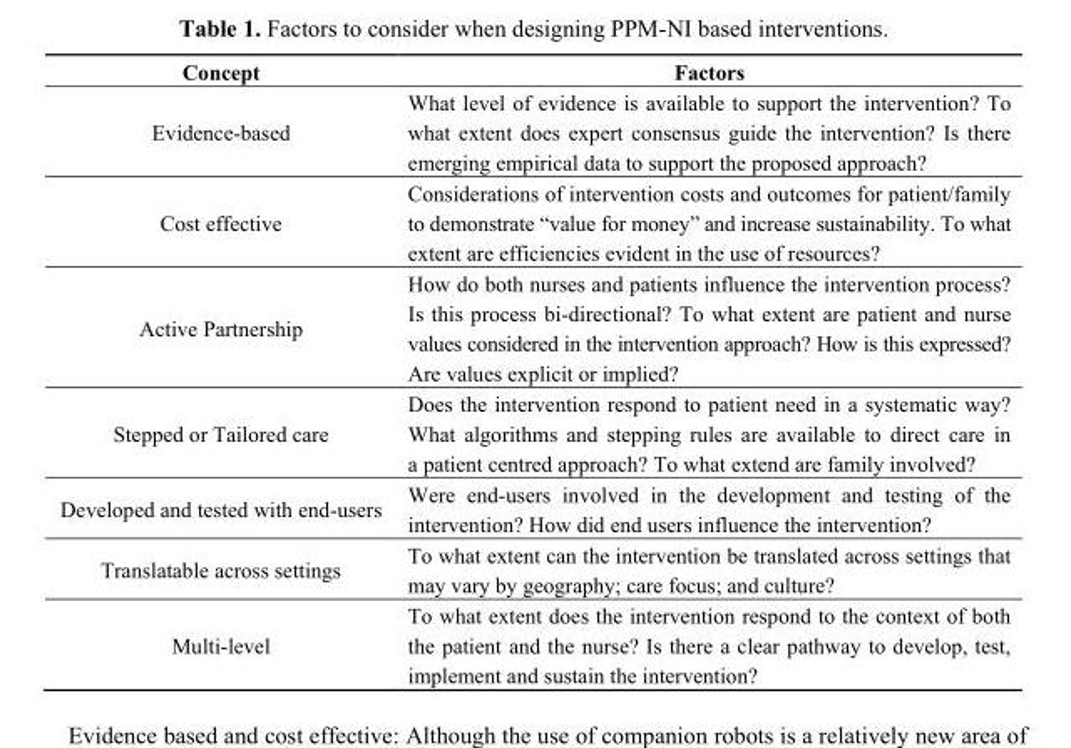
<table><thead><tr><td>Concept</td><td>Factors</td></tr></thead><tbody><tr><td>Evidence-based</td><td>What level of evidence is available to support the intervention? To what extent does expert consensus guide the intervention? Is there emerging empirical data to support the proposed approach?</td></tr><tr><td>Cost effective</td><td>Considerations of intervention costs and outcomes for patient/family to demonstrate “value for money” and increase sustainability. To what extent are efficiencies evident in the use of resources?</td></tr><tr><td>Active Partnership</td><td>How do both nurses and patients influence the intervention process? Is this process bi-directional? To what extent are patient and nurse values considered in the intervention approach? How is this expressed? Are values explicit or implied?</td></tr><tr><td>Stepped or Tailored care</td><td>Does the intervention respond to patient need in a systematic way? What algorithms and stepping rules are available to direct care in a patient centred approach? To what extend are family involved?</td></tr><tr><td>Developed and tested with end-users</td><td>Were end-users involved in the development and testing of the intervention? How did end users influence the intervention?</td></tr><tr><td>Translatable across settings</td><td>To what extent can the intervention be translated across settings that may vary by geography; care focus; and culture?</td></tr><tr><td>Multi-level</td><td>To what extent does the intervention respond to the context of both the patient and the nurse? Is there a clear pathway to develop, test, implement and sustain the intervention?</td></tr></tbody></table>